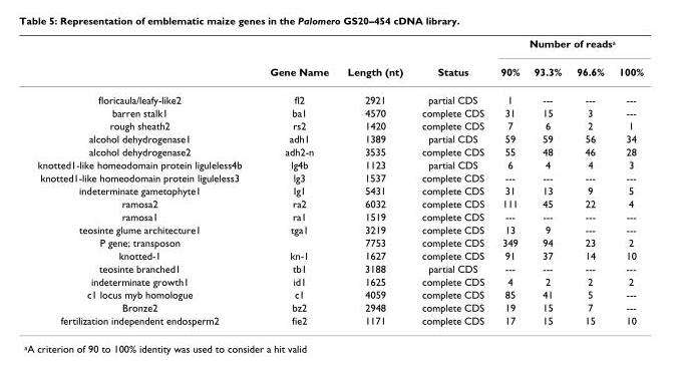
<table><thead><tr><td rowspan="2"></td><td rowspan="2">Gene Name</td><td rowspan="2">Length (nt)</td><td rowspan="2">Status</td><td colspan="4">Number of reads<sup>a</sup></td></tr><tr><td>90%</td><td>93.3%</td><td>96.6%</td><td>100%</td></tr></thead><tbody><tr><td>floricaula/leafy-like2</td><td>fl2</td><td>2921</td><td>partial CDS</td><td>1</td><td>---</td><td>---</td><td>---</td></tr><tr><td>barren stalk1</td><td>ba1</td><td>4570</td><td>complete CDS</td><td>31</td><td>15</td><td>3</td><td>---</td></tr><tr><td>rough sheath2</td><td>rs2</td><td>1420</td><td>complete CDS</td><td>7</td><td>6</td><td>2</td><td>1</td></tr><tr><td>alcohol dehydrogenase1</td><td>adh1</td><td>1389</td><td>partial CDS</td><td>59</td><td>59</td><td>56</td><td>34</td></tr><tr><td>alcohol dehydrogenase2</td><td>adh2-n</td><td>3535</td><td>complete CDS</td><td>55</td><td>48</td><td>46</td><td>28</td></tr><tr><td>knotted1-like homeodomain protein liguleless4b</td><td>lg4b</td><td>1123</td><td>partial CDS</td><td>6</td><td>4</td><td>4</td><td>3</td></tr><tr><td>knotted1-like homeodomain protein liguleless3</td><td>lg3</td><td>1537</td><td>complete CDS</td><td>---</td><td>---</td><td>---</td><td>---</td></tr><tr><td>indeterminate gametophyte1</td><td>Ig1</td><td>5431</td><td>complete CDS</td><td>31</td><td>13</td><td>9</td><td>5</td></tr><tr><td>ramosa2</td><td>ra2</td><td>6032</td><td>complete CDS</td><td>111</td><td>45</td><td>22</td><td>4</td></tr><tr><td>ramosa1</td><td>ra1</td><td>1519</td><td>complete CDS</td><td>---</td><td>---</td><td>---</td><td>---</td></tr><tr><td>teosinte glume architecture1</td><td>tga1</td><td>3219</td><td>complete CDS</td><td>13</td><td>9</td><td>---</td><td>---</td></tr><tr><td>P gene; transposon</td><td></td><td>7753</td><td>complete CDS</td><td>349</td><td>94</td><td>23</td><td>2</td></tr><tr><td>knotted-1</td><td>kn-1</td><td>1627</td><td>complete CDS</td><td>91</td><td>37</td><td>14</td><td>10</td></tr><tr><td>teosinte branched1</td><td>tb1</td><td>3188</td><td>partial CDS</td><td>---</td><td>---</td><td>---</td><td>---</td></tr><tr><td>indeterminate growth1</td><td>id1</td><td>1625</td><td>complete CDS</td><td>4</td><td>2</td><td>2</td><td>2</td></tr><tr><td>c1 locus myb homologue</td><td>c1</td><td>4059</td><td>complete CDS</td><td>85</td><td>41</td><td>5</td><td>---</td></tr><tr><td>Bronze2</td><td>bz2</td><td>2948</td><td>complete CDS</td><td>19</td><td>15</td><td>7</td><td>---</td></tr><tr><td>fertilization independent endosperm2</td><td>fie2</td><td>1171</td><td>complete CDS</td><td>17</td><td>15</td><td>15</td><td>10</td></tr></tbody></table>